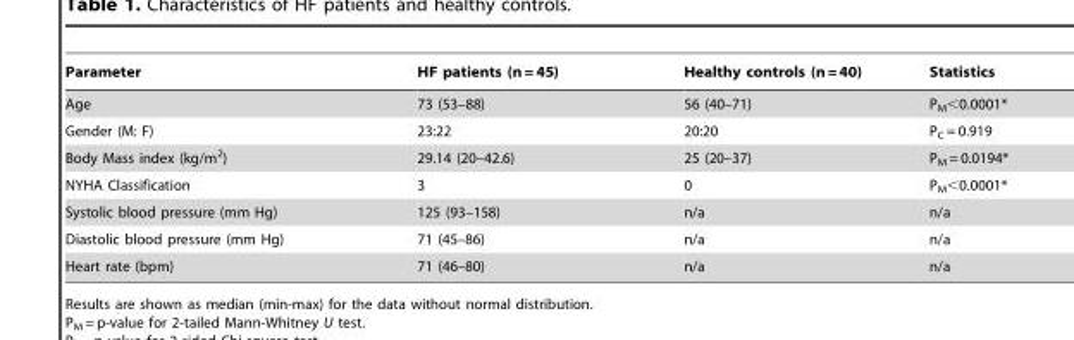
<table><thead><tr><td>Parameter</td><td>HF patients (n = 45)</td><td>Healthy controls (n = 40)</td><td>Statistics</td></tr></thead><tbody><tr><td>Age</td><td>73 (53–88)</td><td>56 (40–71)</td><td>P<sub>M</sub>&lt;0.0001*</td></tr><tr><td>Gender (M: F)</td><td>23:22</td><td>20:20</td><td>P<sub>C</sub> = 0.919</td></tr><tr><td>Body Mass index (kg/m<sup>2</sup>)</td><td>29.14 (20–42.6)</td><td>25 (20–37)</td><td>P<sub>M</sub> = 0.0194*</td></tr><tr><td>NYHA Classification</td><td>3</td><td>0</td><td>P<sub>M</sub>&lt;0.0001*</td></tr><tr><td>Systolic blood pressure (mm Hg)</td><td>125 (93–158)</td><td>n/a</td><td>n/a</td></tr><tr><td>Diastolic blood pressure (mm Hg)</td><td>71 (45–86)</td><td>n/a</td><td>n/a</td></tr><tr><td>Heart rate (bpm)</td><td>71 (46–80)</td><td>n/a</td><td>n/a</td></tr></tbody></table>